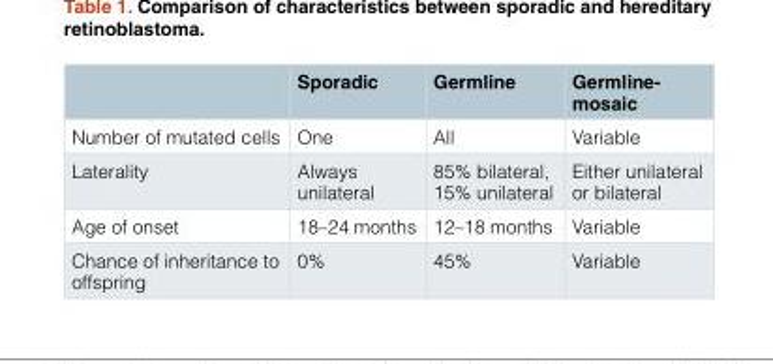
<table><thead><tr><td></td><td>Sporadic</td><td>Germline</td><td>Germline- mosaic</td></tr></thead><tbody><tr><td>Number of mutated cells</td><td>One</td><td>All</td><td>Variable</td></tr><tr><td>Laterality</td><td>Always unilateral</td><td>85% bilateral, 15% unilateral</td><td>Either unilateral or bilateral</td></tr><tr><td>Age of onset</td><td>18–24 months</td><td>12–18 months</td><td>Variable</td></tr><tr><td>Chance of inheritance to offspring</td><td>0%</td><td>45%</td><td>Variable</td></tr></tbody></table>